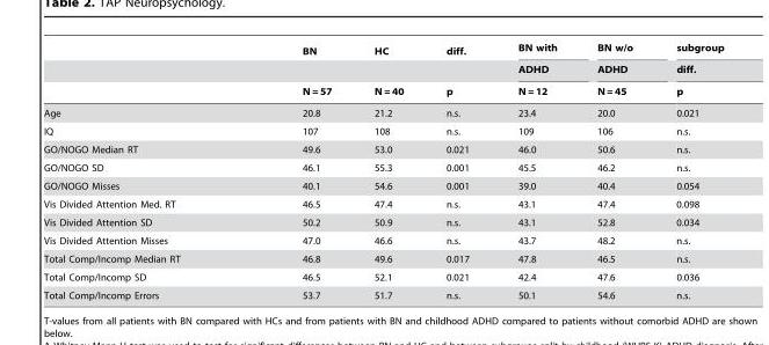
<table><thead><tr><td rowspan="3"></td><td rowspan="3">BN N = 57</td><td rowspan="3">HC N = 40</td><td rowspan="3">diff. p</td><td rowspan="3">BN with ADHD N = 12</td><td rowspan="3">BN w/o ADHD N = 45</td><td rowspan="3">subgroup diff. p</td></tr><tr></tr><tr></tr></thead><tbody><tr><td>Age</td><td>20.8</td><td>21.2</td><td>n.s.</td><td>23.4</td><td>20.0</td><td>0.021</td></tr><tr><td>IQ</td><td>107</td><td>108</td><td>n.s.</td><td>109</td><td>106</td><td>n.s.</td></tr><tr><td>GO/NOGO Median RT</td><td>49.6</td><td>53.0</td><td>0.021</td><td>46.0</td><td>50.6</td><td>n.s.</td></tr><tr><td>GO/NOGO SD</td><td>46.1</td><td>55.3</td><td>0.001</td><td>45.5</td><td>46.2</td><td>n.s.</td></tr><tr><td>GO/NOGO Misses</td><td>40.1</td><td>54.6</td><td>0.001</td><td>39.0</td><td>40.4</td><td>0.054</td></tr><tr><td>Vis Divided Attention Med. RT</td><td>46.5</td><td>47.4</td><td>n.s.</td><td>43.1</td><td>47.4</td><td>0.098</td></tr><tr><td>Vis Divided Attention SD</td><td>50.2</td><td>50.9</td><td>n.s.</td><td>43.1</td><td>52.8</td><td>0.034</td></tr><tr><td>Vis Divided Attention Misses</td><td>47.0</td><td>46.6</td><td>n.s.</td><td>43.7</td><td>48.2</td><td>n.s.</td></tr><tr><td>Total Comp/Incomp Median RT</td><td>46.8</td><td>49.6</td><td>0.017</td><td>47.8</td><td>46.5</td><td>n.s.</td></tr><tr><td>Total Comp/Incomp SD</td><td>46.5</td><td>52.1</td><td>0.021</td><td>42.4</td><td>47.6</td><td>0.036</td></tr><tr><td>Total Comp/Incomp Errors</td><td>53.7</td><td>51.7</td><td>n.s.</td><td>50.1</td><td>54.6</td><td>n.s.</td></tr></tbody></table>